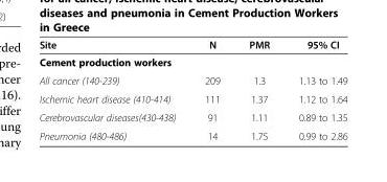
<table><thead><tr><td>Site</td><td>N</td><td>PMR</td><td>95% CI</td></tr></thead><tbody><tr><td colspan="4">Cement production workers</td></tr><tr><td>All cancer (140-239)</td><td>209</td><td>1.3</td><td>1.13 to 1.49</td></tr><tr><td>Ischemic heart disease (410-414)</td><td>111</td><td>1.37</td><td>1.12 to 1.64</td></tr><tr><td>Cerebrovascular diseases(430-438)</td><td>91</td><td>1.11</td><td>0.89 to 1.35</td></tr><tr><td>Pneumonia (480-486)</td><td>14</td><td>1.75</td><td>0.99 to 2.86</td></tr></tbody></table>